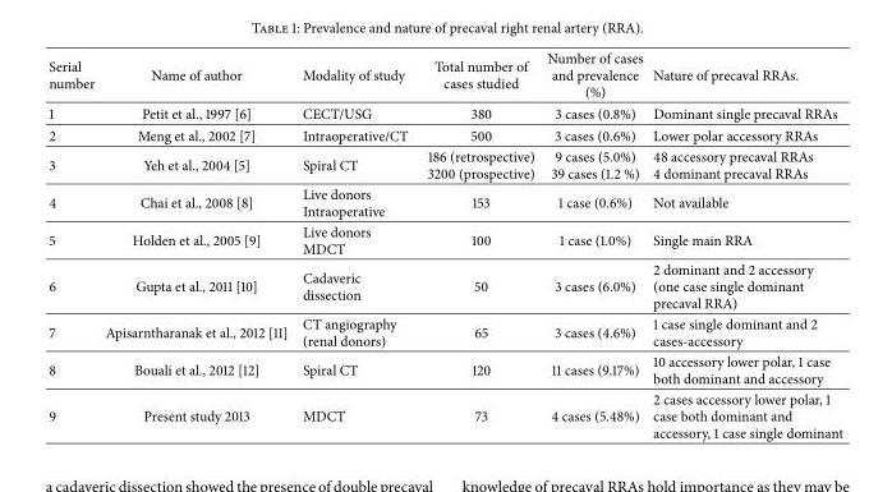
<table><thead><tr><td>Serial number</td><td>Name of author</td><td>Modality of study</td><td>Total number of cases studied</td><td>Number of cases and prevalence (%)</td><td>Nature of precaval RRAs.</td></tr></thead><tbody><tr><td>1</td><td>Petit et al., 1997 [6]</td><td>CECT/USG</td><td>380</td><td>3 cases (0.8%)</td><td>Dominant single precaval RRAs</td></tr><tr><td>2</td><td>Meng et al., 2002 [7]</td><td>Intraoperative/CT</td><td>500</td><td>3 cases (0.6%)</td><td>Lower polar accessory RRAs</td></tr><tr><td>3</td><td>Yeh et al., 2004 [5]</td><td>Spiral CT</td><td>186 (retrospective) 3200 (prospective)</td><td>9 cases (5.0%) 39 cases (1.2 %)</td><td>48 accessory precaval RRAs 4 dominant precaval RRAs</td></tr><tr><td>4</td><td>Chai et al., 2008 [8]</td><td>Live donors Intraoperative</td><td>153</td><td>1 case (0.6%)</td><td>Not available</td></tr><tr><td>5</td><td>Holden et al., 2005 [9]</td><td>Live donors MDCT</td><td>100</td><td>1 case (1.0%)</td><td>Single main RRA</td></tr><tr><td>6</td><td>Gupta et al., 2011 [10]</td><td>Cadaveric dissection</td><td>50</td><td>3 cases (6.0%)</td><td>2 dominant and 2 accessory (one case single dominant precaval RRA)</td></tr><tr><td>7</td><td>Apisarntharanak et al., 2012 [11]</td><td>CT angiography (renal donors)</td><td>65</td><td>3 cases (4.6%)</td><td>1 case single dominant and 2 cases-accessory</td></tr><tr><td>8</td><td>Bouali et al., 2012 [12]</td><td>Spiral CT</td><td>120</td><td>11 cases (9.17%)</td><td>10 accessory lower polar, 1 case both dominant and accessory</td></tr><tr><td>9</td><td>Present study 2013</td><td>MDCT</td><td>73</td><td>4 cases (5.48%)</td><td>2 cases accessory lower polar, 1 case both dominant and accessory, 1 case single dominant</td></tr></tbody></table>